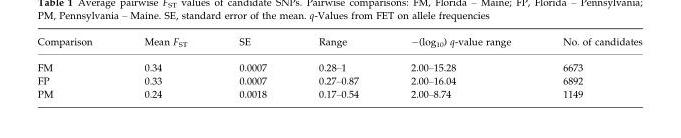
<table><thead><tr><td>Comparison</td><td>Mean F<sub>ST</sub></td><td>SE</td><td>Range</td><td>−(log<sub>10</sub>) q-value range</td><td>No. of candidates</td></tr></thead><tbody><tr><td>FM</td><td>0.34</td><td>0.0007</td><td>0.28–1</td><td>2.00–15.28</td><td>6673</td></tr><tr><td>FP</td><td>0.33</td><td>0.0007</td><td>0.27–0.87</td><td>2.00–16.04</td><td>6892</td></tr><tr><td>PM</td><td>0.24</td><td>0.0018</td><td>0.17–0.54</td><td>2.00–8.74</td><td>1149</td></tr></tbody></table>